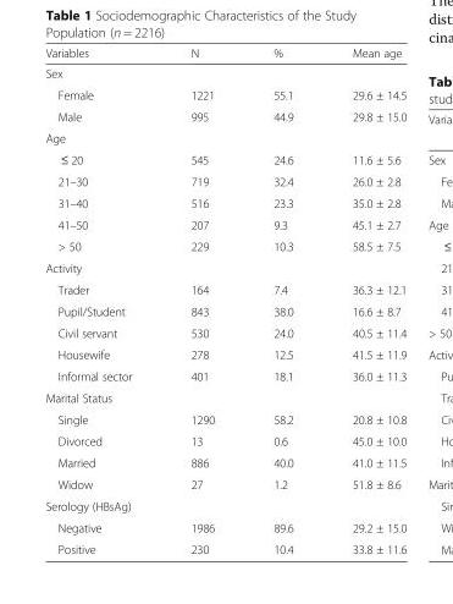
<table><thead><tr><td>Variables</td><td>N</td><td>%</td><td>Mean age</td></tr></thead><tbody><tr><td colspan="4">Sex</td></tr><tr><td>Female</td><td>1221</td><td>55.1</td><td>29.6 ± 14.5</td></tr><tr><td>Male</td><td>995</td><td>44.9</td><td>29.8 ± 15.0</td></tr><tr><td colspan="4">Age</td></tr><tr><td>≤ 20</td><td>545</td><td>24.6</td><td>11.6 ± 5.6</td></tr><tr><td>21–30</td><td>719</td><td>32.4</td><td>26.0 ± 2.8</td></tr><tr><td>31–40</td><td>516</td><td>23.3</td><td>35.0 ± 2.8</td></tr><tr><td>41–50</td><td>207</td><td>9.3</td><td>45.1 ± 2.7</td></tr><tr><td>&gt; 50</td><td>229</td><td>10.3</td><td>58.5 ± 7.5</td></tr><tr><td colspan="4">Activity</td></tr><tr><td>Trader</td><td>164</td><td>7.4</td><td>36.3 ± 12.1</td></tr><tr><td>Pupil/Student</td><td>843</td><td>38.0</td><td>16.6 ± 8.7</td></tr><tr><td>Civil servant</td><td>530</td><td>24.0</td><td>40.5 ± 11.4</td></tr><tr><td>Housewife</td><td>278</td><td>12.5</td><td>41.5 ± 11.9</td></tr><tr><td>Informal sector</td><td>401</td><td>18.1</td><td>36.0 ± 11.3</td></tr><tr><td colspan="4">Marital Status</td></tr><tr><td>Single</td><td>1290</td><td>58.2</td><td>20.8 ± 10.8</td></tr><tr><td>Divorced</td><td>13</td><td>0.6</td><td>45.0 ± 10.0</td></tr><tr><td>Married</td><td>886</td><td>40.0</td><td>41.0 ± 11.5</td></tr><tr><td>Widow</td><td>27</td><td>1.2</td><td>51.8 ± 8.6</td></tr><tr><td colspan="4">Serology (HBsAg)</td></tr><tr><td>Negative</td><td>1986</td><td>89.6</td><td>29.2 ± 15.0</td></tr><tr><td>Positive</td><td>230</td><td>10.4</td><td>33.8 ± 11.6</td></tr></tbody></table>